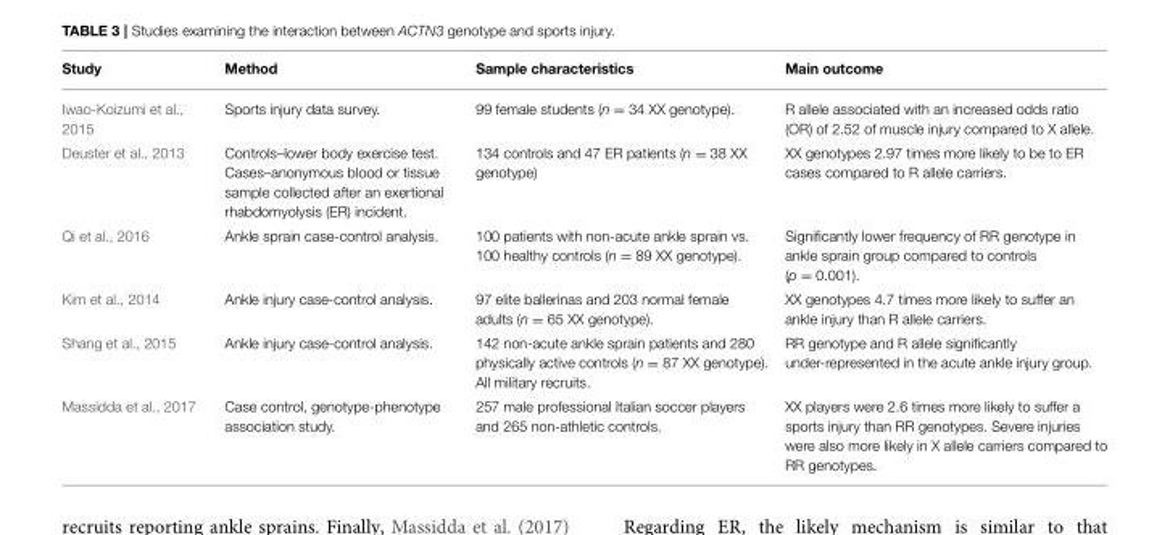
<table><thead><tr><td>Study</td><td>Method</td><td>Sample characteristics</td><td>Main outcome</td></tr></thead><tbody><tr><td>Iwao-Koizumi et al., 2015</td><td>Sports injury data survey.</td><td>99 female students (n = 34 XX genotype).</td><td>R allele associated with an increased odds ratio (OR) of 2.52 of muscle injury compared to X allele.</td></tr><tr><td>Deuster et al., 2013</td><td>Controls–lower body exercise test. Cases–anonymous blood or tissue sample collected after an exertional rhabdomyolysis (ER) incident.</td><td>134 controls and 47 ER patients (n = 38 XX genotype)</td><td>XX genotypes 2.97 times more likely to be to ER cases compared to R allele carriers.</td></tr><tr><td>Qi et al., 2016</td><td>Ankle sprain case-control analysis.</td><td>100 patients with non-acute ankle sprain vs. 100 healthy controls (n = 89 XX genotype).</td><td>Significantly lower frequency of RR genotype in ankle sprain group compared to controls (p = 0.001).</td></tr><tr><td>Kim et al., 2014</td><td>Ankle injury case-control analysis.</td><td>97 elite ballerinas and 203 normal female adults (n = 65 XX genotype).</td><td>XX genotypes 4.7 times more likely to suffer an ankle injury than R allele carriers.</td></tr><tr><td>Shang et al., 2015</td><td>Ankle injury case-control analysis.</td><td>142 non-acute ankle sprain patients and 280 physically active controls (n = 87 XX genotype). All military recruits.</td><td>RR genotype and R allele significantly under-represented in the acute ankle injury group.</td></tr><tr><td>Massidda et al., 2017</td><td>Case control, genotype-phenotype association study.</td><td>257 male professional Italian soccer players and 265 non-athletic controls.</td><td>XX players were 2.6 times more likely to suffer a sports injury than RR genotypes. Severe injuries were also more likely in X allele carriers compared to RR genotypes.</td></tr></tbody></table>